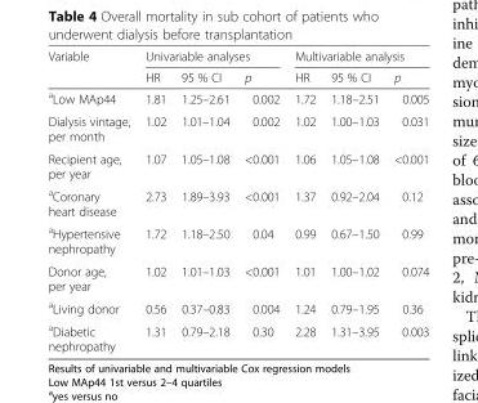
<table><thead><tr><td rowspan="2">Variable</td><td colspan="3">Univariable analyses</td><td colspan="3">Multivariable analysis</td></tr><tr><td>HR</td><td>95 % CI</td><td>p</td><td>HR</td><td>95 % CI</td><td>p</td></tr></thead><tbody><tr><td><sup>a</sup>Low MAp44</td><td>1.81</td><td>1.25–2.61</td><td>0.002</td><td>1.72</td><td>1.18–2.51</td><td>0.005</td></tr><tr><td>Dialysis vintage, per month</td><td>1.02</td><td>1.01–1.04</td><td>0.002</td><td>1.02</td><td>1.00–1.03</td><td>0.031</td></tr><tr><td>Recipient age, per year</td><td>1.07</td><td>1.05–1.08</td><td>&lt;0.001</td><td>1.06</td><td>1.05–1.08</td><td>&lt;0.001</td></tr><tr><td><sup>a</sup>Coronary heart disease</td><td>2.73</td><td>1.89–3.93</td><td>&lt;0.001</td><td>1.37</td><td>0.92–2.04</td><td>0.12</td></tr><tr><td><sup>a</sup>Hypertensive nephropathy</td><td>1.72</td><td>1.18–2.50</td><td>0.04</td><td>0.99</td><td>0.67–1.50</td><td>0.99</td></tr><tr><td>Donor age, per year</td><td>1.02</td><td>1.01–1.03</td><td>&lt;0.001</td><td>1.01</td><td>1.00–1.02</td><td>0.074</td></tr><tr><td><sup>a</sup>Living donor</td><td>0.56</td><td>0.37–0.83</td><td>0.004</td><td>1.24</td><td>0.79–1.95</td><td>0.36</td></tr><tr><td><sup>a</sup>Diabetic nephropathy</td><td>1.31</td><td>0.79–2.18</td><td>0.30</td><td>2.28</td><td>1.31–3.95</td><td>0.003</td></tr></tbody></table>